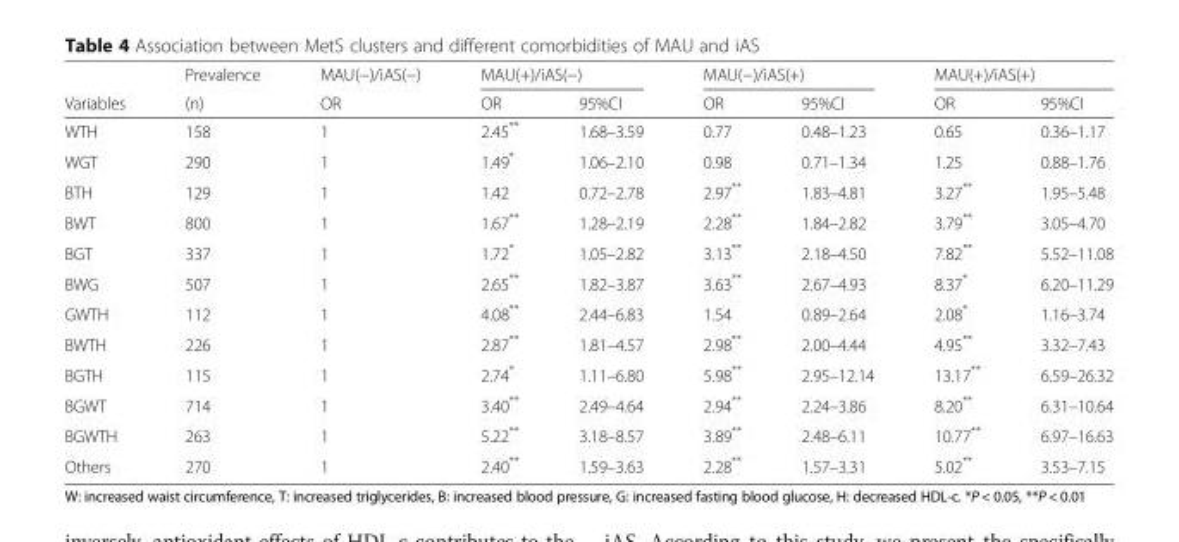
<table><thead><tr><td rowspan="2">Variables</td><td rowspan="2">Prevalence (n)</td><td rowspan="2">MAU(−)/iAS(−) OR</td><td colspan="2">MAU(+)/iAS(−)</td><td colspan="2">MAU(−)/iAS(+)</td><td colspan="2">MAU(+)/iAS(+)</td></tr><tr><td>OR</td><td>95%CI</td><td>OR</td><td>95%CI</td><td>OR</td><td>95%CI</td></tr></thead><tbody><tr><td>WTH</td><td>158</td><td>1</td><td>2.45**</td><td>1.68–3.59</td><td>0.77</td><td>0.48–1.23</td><td>0.65</td><td>0.36–1.17</td></tr><tr><td>WGT</td><td>290</td><td>1</td><td>1.49*</td><td>1.06–2.10</td><td>0.98</td><td>0.71–1.34</td><td>1.25</td><td>0.88–1.76</td></tr><tr><td>BTH</td><td>129</td><td>1</td><td>1.42</td><td>0.72–2.78</td><td>2.97**</td><td>1.83–4.81</td><td>3.27**</td><td>1.95–5.48</td></tr><tr><td>BWT</td><td>800</td><td>1</td><td>1.67**</td><td>1.28–2.19</td><td>2.28**</td><td>1.84–2.82</td><td>3.79**</td><td>3.05–4.70</td></tr><tr><td>BGT</td><td>337</td><td>1</td><td>1.72*</td><td>1.05–2.82</td><td>3.13**</td><td>2.18–4.50</td><td>7.82**</td><td>5.52–11.08</td></tr><tr><td>BWG</td><td>507</td><td>1</td><td>2.65**</td><td>1.82–3.87</td><td>3.63**</td><td>2.67–4.93</td><td>8.37*</td><td>6.20–11.29</td></tr><tr><td>GWTH</td><td>112</td><td>1</td><td>4.08**</td><td>2.44–6.83</td><td>1.54</td><td>0.89–2.64</td><td>2.08*</td><td>1.16–3.74</td></tr><tr><td>BWTH</td><td>226</td><td>1</td><td>2.87**</td><td>1.81–4.57</td><td>2.98**</td><td>2.00–4.44</td><td>4.95**</td><td>3.32–7.43</td></tr><tr><td>BGTH</td><td>115</td><td>1</td><td>2.74*</td><td>1.11–6.80</td><td>5.98**</td><td>2.95–12.14</td><td>13.17**</td><td>6.59–26.32</td></tr><tr><td>BGWT</td><td>714</td><td>1</td><td>3.40**</td><td>2.49–4.64</td><td>2.94**</td><td>2.24–3.86</td><td>8.20**</td><td>6.31–10.64</td></tr><tr><td>BGWTH</td><td>263</td><td>1</td><td>5.22**</td><td>3.18–8.57</td><td>3.89**</td><td>2.48–6.11</td><td>10.77**</td><td>6.97–16.63</td></tr><tr><td>Others</td><td>270</td><td>1</td><td>2.40**</td><td>1.59–3.63</td><td>2.28**</td><td>1.57–3.31</td><td>5.02**</td><td>3.53–7.15</td></tr></tbody></table>